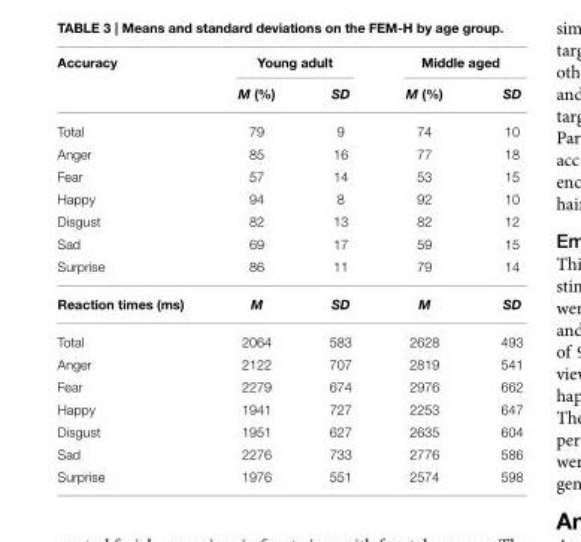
<table><thead><tr><td rowspan="2">Accuracy</td><td colspan="2">Young adult</td><td colspan="2">Middle aged</td></tr><tr><td>M (%)</td><td>SD</td><td>M (%)</td><td>SD</td></tr></thead><tbody><tr><td>Total</td><td>79</td><td>9</td><td>74</td><td>10</td></tr><tr><td>Anger</td><td>85</td><td>16</td><td>77</td><td>18</td></tr><tr><td>Fear</td><td>57</td><td>14</td><td>53</td><td>15</td></tr><tr><td>Happy</td><td>94</td><td>8</td><td>92</td><td>10</td></tr><tr><td>Disgust</td><td>82</td><td>13</td><td>82</td><td>12</td></tr><tr><td>Sad</td><td>69</td><td>17</td><td>59</td><td>15</td></tr><tr><td>Surprise</td><td>86</td><td>11</td><td>79</td><td>14</td></tr><tr><td>Reaction times (ms)</td><td>M</td><td>SD</td><td>M</td><td>SD</td></tr><tr><td>Total</td><td>2064</td><td>583</td><td>2628</td><td>493</td></tr><tr><td>Anger</td><td>2122</td><td>707</td><td>2819</td><td>541</td></tr><tr><td>Fear</td><td>2279</td><td>674</td><td>2976</td><td>662</td></tr><tr><td>Happy</td><td>1941</td><td>727</td><td>2253</td><td>647</td></tr><tr><td>Disgust</td><td>1951</td><td>627</td><td>2635</td><td>604</td></tr><tr><td>Sad</td><td>2276</td><td>733</td><td>2776</td><td>586</td></tr><tr><td>Surprise</td><td>1976</td><td>551</td><td>2574</td><td>598</td></tr></tbody></table>